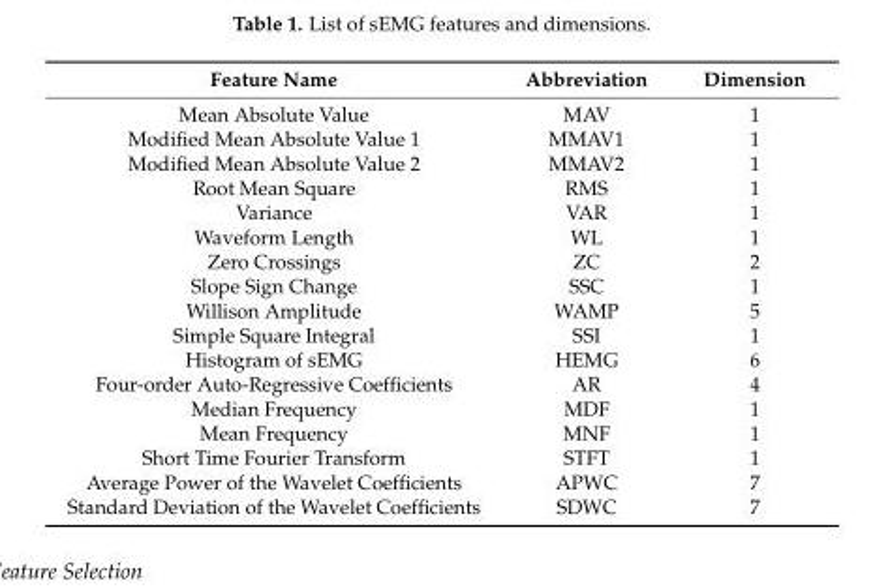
<table><thead><tr><td>Feature Name</td><td>Abbreviation</td><td>Dimension</td></tr></thead><tbody><tr><td>Mean Absolute Value</td><td>MAV</td><td>1</td></tr><tr><td>Modified Mean Absolute Value 1</td><td>MMAV1</td><td>1</td></tr><tr><td>Modified Mean Absolute Value 2</td><td>MMAV2</td><td>1</td></tr><tr><td>Root Mean Square</td><td>RMS</td><td>1</td></tr><tr><td>Variance</td><td>VAR</td><td>1</td></tr><tr><td>Waveform Length</td><td>WL</td><td>1</td></tr><tr><td>Zero Crossings</td><td>ZC</td><td>2</td></tr><tr><td>Slope Sign Change</td><td>SSC</td><td>1</td></tr><tr><td>Willison Amplitude</td><td>WAMP</td><td>5</td></tr><tr><td>Simple Square Integral</td><td>SSI</td><td>1</td></tr><tr><td>Histogram of sEMG</td><td>HEMG</td><td>6</td></tr><tr><td>Four-order Auto-Regressive Coefficients</td><td>AR</td><td>4</td></tr><tr><td>Median Frequency</td><td>MDF</td><td>1</td></tr><tr><td>Mean Frequency</td><td>MNF</td><td>1</td></tr><tr><td>Short Time Fourier Transform</td><td>STFT</td><td>1</td></tr><tr><td>Average Power of the Wavelet Coefficients</td><td>APWC</td><td>7</td></tr><tr><td>Standard Deviation of the Wavelet Coefficients</td><td>SDWC</td><td>7</td></tr></tbody></table>